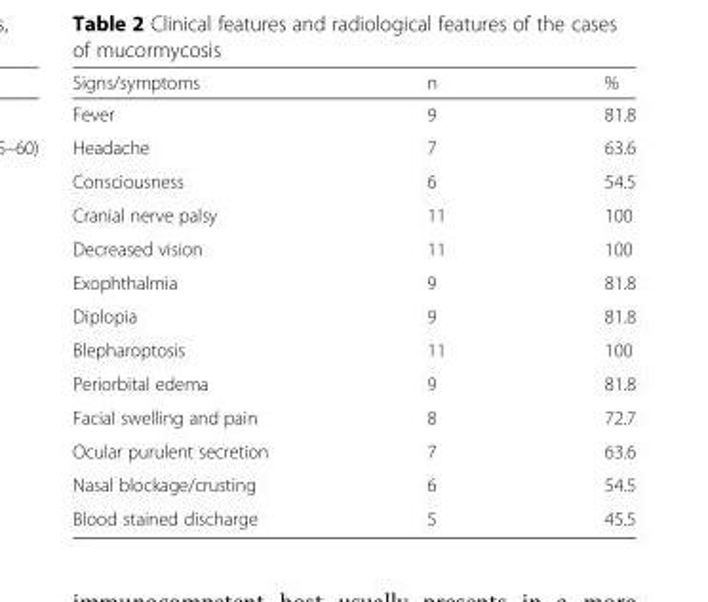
<table><thead><tr><td>Signs/symptoms</td><td>n</td><td>%</td></tr></thead><tbody><tr><td>Fever</td><td>9</td><td>81.8</td></tr><tr><td>Headache</td><td>7</td><td>63.6</td></tr><tr><td>Consciousness</td><td>6</td><td>54.5</td></tr><tr><td>Cranial nerve palsy</td><td>11</td><td>100</td></tr><tr><td>Decreased vision</td><td>11</td><td>100</td></tr><tr><td>Exophthalmia</td><td>9</td><td>81.8</td></tr><tr><td>Diplopia</td><td>9</td><td>81.8</td></tr><tr><td>Blepharoptosis</td><td>11</td><td>100</td></tr><tr><td>Periorbital edema</td><td>9</td><td>81.8</td></tr><tr><td>Facial swelling and pain</td><td>8</td><td>72.7</td></tr><tr><td>Ocular purulent secretion</td><td>7</td><td>63.6</td></tr><tr><td>Nasal blockage/crusting</td><td>6</td><td>54.5</td></tr><tr><td>Blood stained discharge</td><td>5</td><td>45.5</td></tr></tbody></table>